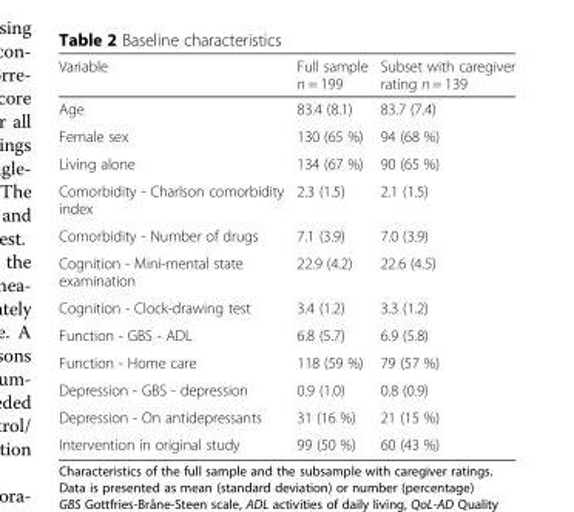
<table><thead><tr><td>Variable</td><td>Full sample n = 199</td><td>Subset with caregiver rating n = 139</td></tr></thead><tbody><tr><td>Age</td><td>83.4 (8.1)</td><td>83.7 (7.4)</td></tr><tr><td>Female sex</td><td>130 (65 %)</td><td>94 (68 %)</td></tr><tr><td>Living alone</td><td>134 (67 %)</td><td>90 (65 %)</td></tr><tr><td>Comorbidity - Charlson comorbidity index</td><td>2.3 (1.5)</td><td>2.1 (1.5)</td></tr><tr><td>Comorbidity - Number of drugs</td><td>7.1 (3.9)</td><td>7.0 (3.9)</td></tr><tr><td>Cognition - Mini-mental state examination</td><td>22.9 (4.2)</td><td>22.6 (4.5)</td></tr><tr><td>Cognition - Clock-drawing test</td><td>3.4 (1.2)</td><td>3.3 (1.2)</td></tr><tr><td>Function - GBS - ADL</td><td>6.8 (5.7)</td><td>6.9 (5.8)</td></tr><tr><td>Function - Home care</td><td>118 (59 %)</td><td>79 (57 %)</td></tr><tr><td>Depression - GBS - depression</td><td>0.9 (1.0)</td><td>0.8 (0.9)</td></tr><tr><td>Depression - On antidepressants</td><td>31 (16 %)</td><td>21 (15 %)</td></tr><tr><td>Intervention in original study</td><td>99 (50 %)</td><td>60 (43 %)</td></tr></tbody></table>